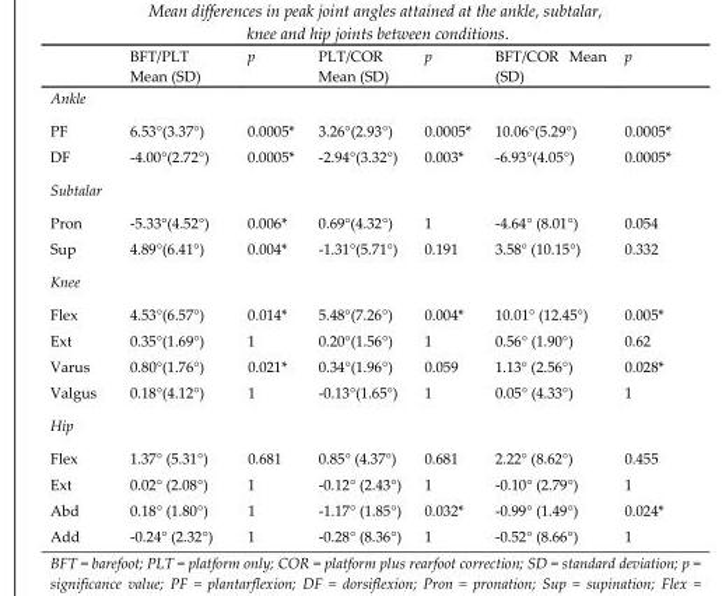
<table><thead><tr><td></td><td>BFT/PLT Mean (SD)</td><td>p</td><td>PLT/COR Mean (SD)</td><td>p</td><td>BFT/COR Mean (SD)</td><td>p</td></tr></thead><tbody><tr><td colspan="7">Ankle</td></tr><tr><td>PF</td><td>6.53°(3.37°)</td><td>0.0005*</td><td>3.26°(2.93°)</td><td>0.0005*</td><td>10.06°(5.29°)</td><td>0.0005*</td></tr><tr><td>DF</td><td>-4.00°(2.72°)</td><td>0.0005*</td><td>-2.94°(3.32°)</td><td>0.003*</td><td>-6.93°(4.05°)</td><td>0.0005*</td></tr><tr><td colspan="7">Subtalar</td></tr><tr><td>Pron</td><td>-5.33°(4.52°)</td><td>0.006*</td><td>0.69°(4.32°)</td><td>1</td><td>-4.64° (8.01°)</td><td>0.054</td></tr><tr><td>Sup</td><td>4.89°(6.41°)</td><td>0.004*</td><td>-1.31°(5.71°)</td><td>0.191</td><td>3.58° (10.15°)</td><td>0.332</td></tr><tr><td colspan="7">Knee</td></tr><tr><td>Flex</td><td>4.53°(6.57°)</td><td>0.014*</td><td>5.48°(7.26°)</td><td>0.004*</td><td>10.01° (12.45°)</td><td>0.005*</td></tr><tr><td>Ext</td><td>0.35°(1.69°)</td><td>1</td><td>0.20°(1.56°)</td><td>1</td><td>0.56° (1.90°)</td><td>0.62</td></tr><tr><td>Varus</td><td>0.80°(1.76°)</td><td>0.021*</td><td>0.34°(1.96°)</td><td>0.059</td><td>1.13° (2.56°)</td><td>0.028*</td></tr><tr><td>Valgus</td><td>0.18°(4.12°)</td><td>1</td><td>-0.13°(1.65°)</td><td>1</td><td>0.05° (4.33°)</td><td>1</td></tr><tr><td colspan="7">Hip</td></tr><tr><td>Flex</td><td>1.37° (5.31°)</td><td>0.681</td><td>0.85° (4.37°)</td><td>0.681</td><td>2.22° (8.62°)</td><td>0.455</td></tr><tr><td>Ext</td><td>0.02° (2.08°)</td><td>1</td><td>-0.12° (2.43°)</td><td>1</td><td>-0.10° (2.79°)</td><td>1</td></tr><tr><td>Abd</td><td>0.18° (1.80°)</td><td>1</td><td>-1.17° (1.85°)</td><td>0.032*</td><td>-0.99° (1.49°)</td><td>0.024*</td></tr><tr><td>Add</td><td>-0.24° (2.32°)</td><td>1</td><td>-0.28° (8.36°)</td><td>1</td><td>-0.52° (8.66°)</td><td>1</td></tr></tbody></table>